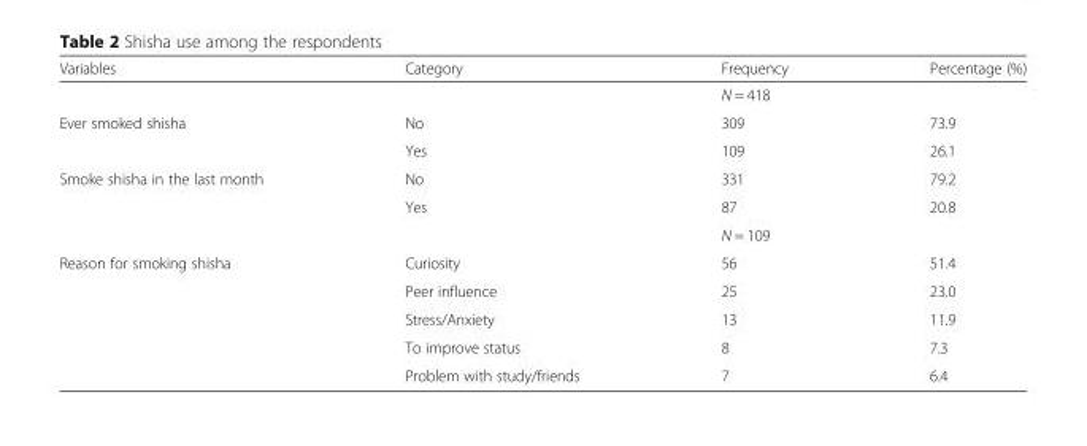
<table><thead><tr><td>Variables</td><td>Category</td><td>Frequency</td><td>Percentage (%)</td></tr></thead><tbody><tr><td></td><td></td><td>N = 418</td><td></td></tr><tr><td rowspan="2">Ever smoked shisha</td><td>No</td><td>309</td><td>73.9</td></tr><tr><td>Yes</td><td>109</td><td>26.1</td></tr><tr><td rowspan="3">Smoke shisha in the last month</td><td>No</td><td>331</td><td>79.2</td></tr><tr><td>Yes</td><td>87</td><td>20.8</td></tr><tr><td></td><td>N = 109</td><td></td></tr><tr><td rowspan="5">Reason for smoking shisha</td><td>Curiosity</td><td>56</td><td>51.4</td></tr><tr><td>Peer influence</td><td>25</td><td>23.0</td></tr><tr><td>Stress/Anxiety</td><td>13</td><td>11.9</td></tr><tr><td>To improve status</td><td>8</td><td>7.3</td></tr><tr><td>Problem with study/friends</td><td>7</td><td>6.4</td></tr></tbody></table>